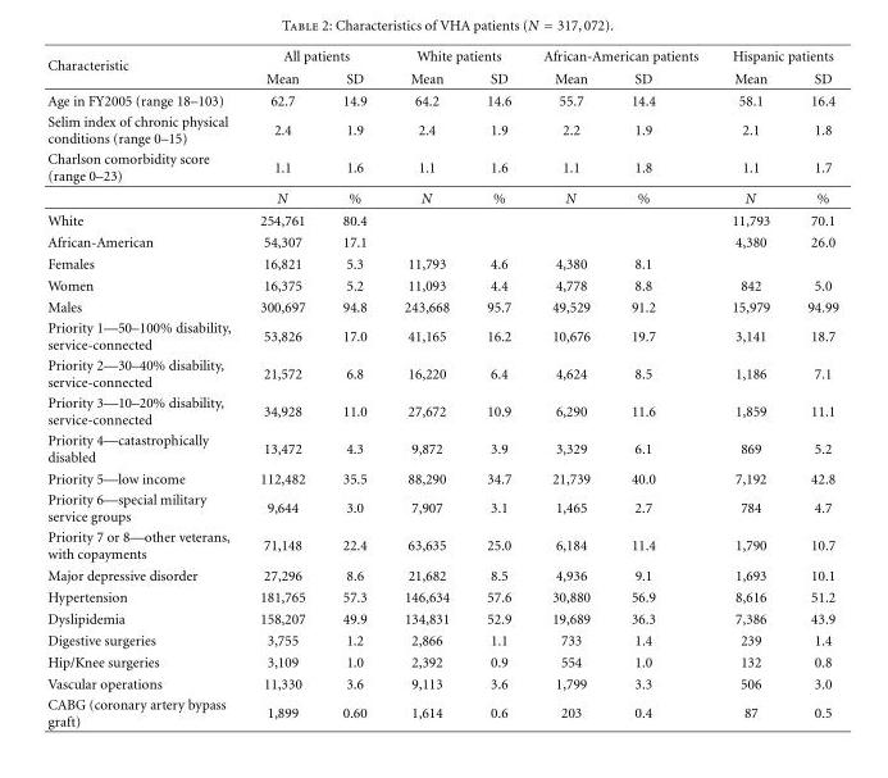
<table><thead><tr><td rowspan="2">Characteristic</td><td colspan="2">All patients</td><td colspan="2">White patients</td><td colspan="2">African-American patients</td><td colspan="2">Hispanic patients</td></tr><tr><td>Mean</td><td>SD</td><td>Mean</td><td>SD</td><td>Mean</td><td>SD</td><td>Mean</td><td>SD</td></tr></thead><tbody><tr><td>Age in FY2005 (range 18–103)</td><td>62.7</td><td>14.9</td><td>64.2</td><td>14.6</td><td>55.7</td><td>14.4</td><td>58.1</td><td>16.4</td></tr><tr><td>Selim index of chronic physical conditions (range 0–15)</td><td>2.4</td><td>1.9</td><td>2.4</td><td>1.9</td><td>2.2</td><td>1.9</td><td>2.1</td><td>1.8</td></tr><tr><td rowspan="2">Charlson comorbidity score (range 0–23)</td><td>1.1</td><td>1.6</td><td>1.1</td><td>1.6</td><td>1.1</td><td>1.8</td><td>1.1</td><td>1.7</td></tr><tr><td>N</td><td>%</td><td>N</td><td>%</td><td>N</td><td>%</td><td>N</td><td>%</td></tr><tr><td>White</td><td>254,761</td><td>80.4</td><td></td><td></td><td></td><td></td><td>11,793</td><td>70.1</td></tr><tr><td>African-American</td><td>54,307</td><td>17.1</td><td></td><td></td><td></td><td></td><td>4,380</td><td>26.0</td></tr><tr><td>Females</td><td>16,821</td><td>5.3</td><td>11,793</td><td>4.6</td><td>4,380</td><td>8.1</td><td></td><td></td></tr><tr><td>Women</td><td>16,375</td><td>5.2</td><td>11,093</td><td>4.4</td><td>4,778</td><td>8.8</td><td>842</td><td>5.0</td></tr><tr><td>Males</td><td>300,697</td><td>94.8</td><td>243,668</td><td>95.7</td><td>49,529</td><td>91.2</td><td>15,979</td><td>94.99</td></tr><tr><td>Priority 1—50–100% disability, service-connected</td><td>53,826</td><td>17.0</td><td>41,165</td><td>16.2</td><td>10,676</td><td>19.7</td><td>3,141</td><td>18.7</td></tr><tr><td>Priority 2—30–40% disability, service-connected</td><td>21,572</td><td>6.8</td><td>16,220</td><td>6.4</td><td>4,624</td><td>8.5</td><td>1,186</td><td>7.1</td></tr><tr><td>Priority 3—10–20% disability, service-connected</td><td>34,928</td><td>11.0</td><td>27,672</td><td>10.9</td><td>6,290</td><td>11.6</td><td>1,859</td><td>11.1</td></tr><tr><td>Priority 4—catastrophically disabled</td><td>13,472</td><td>4.3</td><td>9,872</td><td>3.9</td><td>3,329</td><td>6.1</td><td>869</td><td>5.2</td></tr><tr><td>Priority 5—low income</td><td>112,482</td><td>35.5</td><td>88,290</td><td>34.7</td><td>21,739</td><td>40.0</td><td>7,192</td><td>42.8</td></tr><tr><td>Priority 6—special military service groups</td><td>9,644</td><td>3.0</td><td>7,907</td><td>3.1</td><td>1,465</td><td>2.7</td><td>784</td><td>4.7</td></tr><tr><td>Priority 7 or 8—other veterans, with copayments</td><td>71,148</td><td>22.4</td><td>63,635</td><td>25.0</td><td>6,184</td><td>11.4</td><td>1,790</td><td>10.7</td></tr><tr><td>Major depressive disorder</td><td>27,296</td><td>8.6</td><td>21,682</td><td>8.5</td><td>4,936</td><td>9.1</td><td>1,693</td><td>10.1</td></tr><tr><td>Hypertension</td><td>181,765</td><td>57.3</td><td>146,634</td><td>57.6</td><td>30,880</td><td>56.9</td><td>8,616</td><td>51.2</td></tr><tr><td>Dyslipidemia</td><td>158,207</td><td>49.9</td><td>134,831</td><td>52.9</td><td>19,689</td><td>36.3</td><td>7,386</td><td>43.9</td></tr><tr><td>Digestive surgeries</td><td>3,755</td><td>1.2</td><td>2,866</td><td>1.1</td><td>733</td><td>1.4</td><td>239</td><td>1.4</td></tr><tr><td>Hip/Knee surgeries</td><td>3,109</td><td>1.0</td><td>2,392</td><td>0.9</td><td>554</td><td>1.0</td><td>132</td><td>0.8</td></tr><tr><td>Vascular operations</td><td>11,330</td><td>3.6</td><td>9,113</td><td>3.6</td><td>1,799</td><td>3.3</td><td>506</td><td>3.0</td></tr><tr><td>CABG (coronary artery bypass graft)</td><td>1,899</td><td>0.60</td><td>1,614</td><td>0.6</td><td>203</td><td>0.4</td><td>87</td><td>0.5</td></tr></tbody></table>